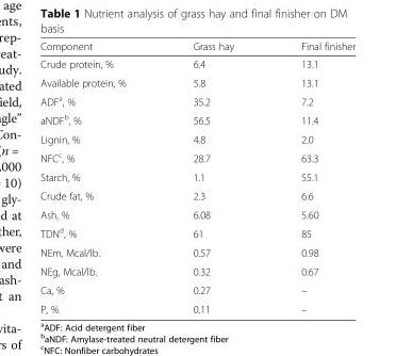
<table><thead><tr><td>Component</td><td>Grass hay</td><td>Final finisher</td></tr></thead><tbody><tr><td>Crude protein, %</td><td>6.4</td><td>13.1</td></tr><tr><td>Available protein, %</td><td>5.8</td><td>13.1</td></tr><tr><td>ADF<sup>a</sup>, %</td><td>35.2</td><td>7.2</td></tr><tr><td>aNDF<sup>b</sup>, %</td><td>56.5</td><td>11.4</td></tr><tr><td>Lignin, %</td><td>4.8</td><td>2.0</td></tr><tr><td>NFC<sup>c</sup>, %</td><td>28.7</td><td>63.3</td></tr><tr><td>Starch, %</td><td>1.1</td><td>55.1</td></tr><tr><td>Crude fat, %</td><td>2.3</td><td>6.6</td></tr><tr><td>Ash, %</td><td>6.08</td><td>5.60</td></tr><tr><td>TDN<sup>d</sup>, %</td><td>61</td><td>85</td></tr><tr><td>NEm, Mcal/lb.</td><td>0.57</td><td>0.98</td></tr><tr><td>NEg, Mcal/lb.</td><td>0.32</td><td>0.67</td></tr><tr><td>Ca, %</td><td>0.27</td><td>–</td></tr><tr><td>P, %</td><td>0.11</td><td>–</td></tr></tbody></table>